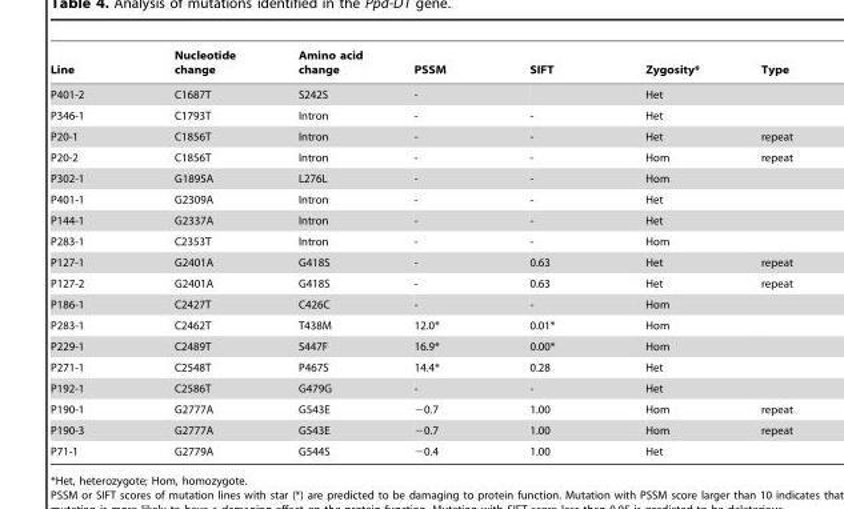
<table><thead><tr><td>Line</td><td>Nucleotide change</td><td>Amino acid change</td><td>PSSM</td><td>SIFT</td><td>Zygosity*</td><td>Type</td></tr></thead><tbody><tr><td>P401-2</td><td>C1687T</td><td>S242S</td><td>-</td><td></td><td>Het</td><td></td></tr><tr><td>P346-1</td><td>C1793T</td><td>Intron</td><td>-</td><td>-</td><td>Het</td><td></td></tr><tr><td>P20-1</td><td>C1856T</td><td>Intron</td><td>-</td><td>-</td><td>Het</td><td>repeat</td></tr><tr><td>P20-2</td><td>C1856T</td><td>Intron</td><td>-</td><td>-</td><td>Hom</td><td>repeat</td></tr><tr><td>P302-1</td><td>G1895A</td><td>L276L</td><td>-</td><td>-</td><td>Hom</td><td></td></tr><tr><td>P401-1</td><td>G2309A</td><td>Intron</td><td>-</td><td>-</td><td>Het</td><td></td></tr><tr><td>P144-1</td><td>G2337A</td><td>Intron</td><td>-</td><td>-</td><td>Het</td><td></td></tr><tr><td>P283-1</td><td>C2353T</td><td>Intron</td><td>-</td><td>-</td><td>Hom</td><td></td></tr><tr><td>P127-1</td><td>G2401A</td><td>G418S</td><td>-</td><td>0.63</td><td>Het</td><td>repeat</td></tr><tr><td>P127-2</td><td>G2401A</td><td>G418S</td><td>-</td><td>0.63</td><td>Het</td><td>repeat</td></tr><tr><td>P186-1</td><td>C2427T</td><td>C426C</td><td>-</td><td>-</td><td>Hom</td><td></td></tr><tr><td>P283-1</td><td>C2462T</td><td>T438M</td><td>12.0*</td><td>0.01*</td><td>Hom</td><td></td></tr><tr><td>P229-1</td><td>C2489T</td><td>S447F</td><td>16.9*</td><td>0.00*</td><td>Hom</td><td></td></tr><tr><td>P271-1</td><td>C2548T</td><td>P467S</td><td>14.4*</td><td>0.28</td><td>Het</td><td></td></tr><tr><td>P192-1</td><td>C2586T</td><td>G479G</td><td>-</td><td>-</td><td>Het</td><td></td></tr><tr><td>P190-1</td><td>G2777A</td><td>G543E</td><td>−0.7</td><td>1.00</td><td>Hom</td><td>repeat</td></tr><tr><td>P190-3</td><td>G2777A</td><td>G543E</td><td>−0.7</td><td>1.00</td><td>Hom</td><td>repeat</td></tr><tr><td>P71-1</td><td>G2779A</td><td>G544S</td><td>−0.4</td><td>1.00</td><td>Het</td><td></td></tr></tbody></table>